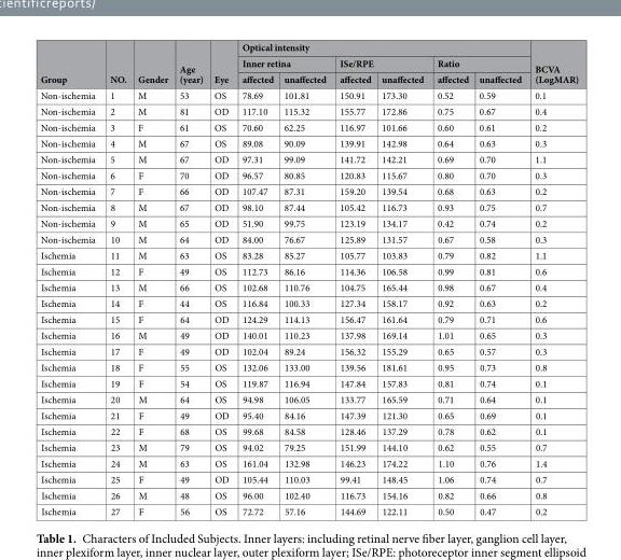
<table><thead><tr><td rowspan="3">Group</td><td rowspan="3">NO.</td><td rowspan="3">Gender</td><td rowspan="3">Age (year)</td><td rowspan="3">Eye</td><td colspan="6">Optical intensity</td><td rowspan="3">BCVA (LogMAR)</td></tr><tr><td colspan="2">Inner retina</td><td colspan="2">ISe/RPE</td><td colspan="2">Ratio</td></tr><tr><td>affected</td><td>unaffected</td><td>affected</td><td>unaffected</td><td>affected</td><td>unaffected</td></tr></thead><tbody><tr><td>Non-ischemia</td><td>1</td><td>M</td><td>53</td><td>OS</td><td>78.69</td><td>101.81</td><td>150.91</td><td>173.30</td><td>0.52</td><td>0.59</td><td>0.1</td></tr><tr><td>Non-ischemia</td><td>2</td><td>M</td><td>81</td><td>OD</td><td>117.10</td><td>115.32</td><td>155.77</td><td>172.86</td><td>0.75</td><td>0.67</td><td>0.4</td></tr><tr><td>Non-ischemia</td><td>3</td><td>F</td><td>61</td><td>OS</td><td>70.60</td><td>62.25</td><td>116.97</td><td>101.66</td><td>0.60</td><td>0.61</td><td>0.2</td></tr><tr><td>Non-ischemia</td><td>4</td><td>M</td><td>67</td><td>OS</td><td>89.08</td><td>90.09</td><td>139.91</td><td>142.98</td><td>0.64</td><td>0.63</td><td>0.3</td></tr><tr><td>Non-ischemia</td><td>5</td><td>M</td><td>67</td><td>OD</td><td>97.31</td><td>99.09</td><td>141.72</td><td>142.21</td><td>0.69</td><td>0.70</td><td>1.1</td></tr><tr><td>Non-ischemia</td><td>6</td><td>F</td><td>70</td><td>OD</td><td>96.57</td><td>80.85</td><td>120.83</td><td>115.67</td><td>0.80</td><td>0.70</td><td>0.3</td></tr><tr><td>Non-ischemia</td><td>7</td><td>F</td><td>66</td><td>OD</td><td>107.47</td><td>87.31</td><td>159.20</td><td>139.54</td><td>0.68</td><td>0.63</td><td>0.2</td></tr><tr><td>Non-ischemia</td><td>8</td><td>M</td><td>67</td><td>OD</td><td>98.10</td><td>87.44</td><td>105.42</td><td>116.73</td><td>0.93</td><td>0.75</td><td>0.7</td></tr><tr><td>Non-ischemia</td><td>9</td><td>M</td><td>65</td><td>OD</td><td>51.90</td><td>99.75</td><td>123.19</td><td>134.17</td><td>0.42</td><td>0.74</td><td>0.2</td></tr><tr><td>Non-ischemia</td><td>10</td><td>M</td><td>64</td><td>OD</td><td>84.00</td><td>76.67</td><td>125.89</td><td>131.57</td><td>0.67</td><td>0.58</td><td>0.3</td></tr><tr><td>Ischemia</td><td>11</td><td>M</td><td>63</td><td>OS</td><td>83.28</td><td>85.27</td><td>105.77</td><td>103.83</td><td>0.79</td><td>0.82</td><td>1.1</td></tr><tr><td>Ischemia</td><td>12</td><td>F</td><td>49</td><td>OS</td><td>112.73</td><td>86.16</td><td>114.36</td><td>106.58</td><td>0.99</td><td>0.81</td><td>0.6</td></tr><tr><td>Ischemia</td><td>13</td><td>M</td><td>66</td><td>OS</td><td>102.68</td><td>110.76</td><td>104.75</td><td>165.44</td><td>0.98</td><td>0.67</td><td>0.4</td></tr><tr><td>Ischemia</td><td>14</td><td>F</td><td>44</td><td>OS</td><td>116.84</td><td>100.33</td><td>127.34</td><td>158.17</td><td>0.92</td><td>0.63</td><td>0.2</td></tr><tr><td>Ischemia</td><td>15</td><td>F</td><td>64</td><td>OD</td><td>124.29</td><td>114.13</td><td>156.47</td><td>161.64</td><td>0.79</td><td>0.71</td><td>0.6</td></tr><tr><td>Ischemia</td><td>16</td><td>M</td><td>49</td><td>OD</td><td>140.01</td><td>110.23</td><td>137.98</td><td>169.14</td><td>1.01</td><td>0.65</td><td>0.3</td></tr><tr><td>Ischemia</td><td>17</td><td>F</td><td>49</td><td>OD</td><td>102.04</td><td>89.24</td><td>156.32</td><td>155.29</td><td>0.65</td><td>0.57</td><td>0.3</td></tr><tr><td>Ischemia</td><td>18</td><td>F</td><td>55</td><td>OS</td><td>132.06</td><td>133.00</td><td>139.56</td><td>181.61</td><td>0.95</td><td>0.73</td><td>0.8</td></tr><tr><td>Ischemia</td><td>19</td><td>F</td><td>54</td><td>OS</td><td>119.87</td><td>116.94</td><td>147.84</td><td>157.83</td><td>0.81</td><td>0.74</td><td>0.1</td></tr><tr><td>Ischemia</td><td>20</td><td>M</td><td>64</td><td>OS</td><td>94.98</td><td>106.05</td><td>133.77</td><td>165.59</td><td>0.71</td><td>0.64</td><td>0.1</td></tr><tr><td>Ischemia</td><td>21</td><td>F</td><td>49</td><td>OD</td><td>95.40</td><td>84.16</td><td>147.39</td><td>121.30</td><td>0.65</td><td>0.69</td><td>0.1</td></tr><tr><td>Ischemia</td><td>22</td><td>F</td><td>68</td><td>OS</td><td>99.68</td><td>84.58</td><td>128.46</td><td>137.29</td><td>0.78</td><td>0.62</td><td>0.1</td></tr><tr><td>Ischemia</td><td>23</td><td>M</td><td>79</td><td>OS</td><td>94.02</td><td>79.25</td><td>151.99</td><td>144.10</td><td>0.62</td><td>0.55</td><td>0.7</td></tr><tr><td>Ischemia</td><td>24</td><td>M</td><td>63</td><td>OS</td><td>161.04</td><td>132.98</td><td>146.23</td><td>174.22</td><td>1.10</td><td>0.76</td><td>1.4</td></tr><tr><td>Ischemia</td><td>25</td><td>F</td><td>49</td><td>OD</td><td>105.44</td><td>110.03</td><td>99.41</td><td>148.45</td><td>1.06</td><td>0.74</td><td>0.7</td></tr><tr><td>Ischemia</td><td>26</td><td>M</td><td>48</td><td>OS</td><td>96.00</td><td>102.40</td><td>116.73</td><td>154.16</td><td>0.82</td><td>0.66</td><td>0.8</td></tr><tr><td>Ischemia</td><td>27</td><td>F</td><td>56</td><td>OS</td><td>72.72</td><td>57.16</td><td>144.69</td><td>122.11</td><td>0.50</td><td>0.47</td><td>0.2</td></tr></tbody></table>